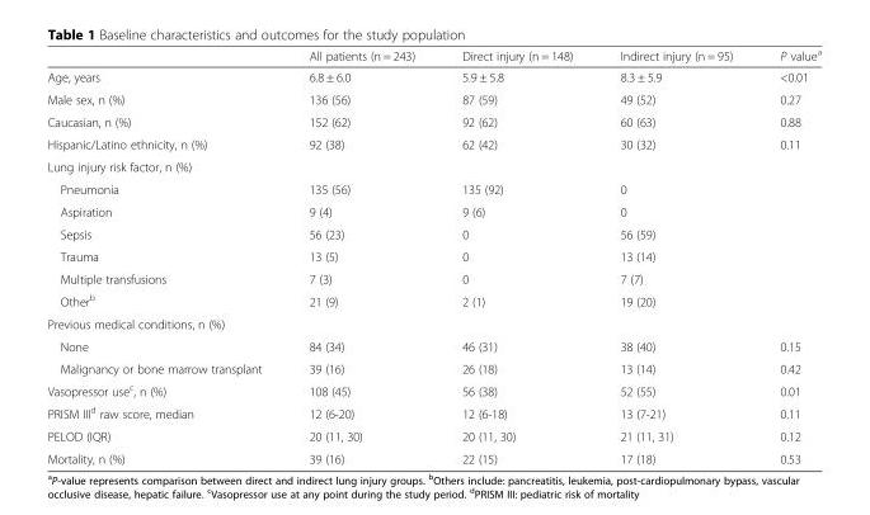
<table><thead><tr><td></td><td>All patients (n = 243)</td><td>Direct injury (n = 148)</td><td>Indirect injury (n = 95)</td><td>P value<sup>a</sup></td></tr></thead><tbody><tr><td>Age, years</td><td>6.8 ± 6.0</td><td>5.9 ± 5.8</td><td>8.3 ± 5.9</td><td>&lt;0.01</td></tr><tr><td>Male sex, n (%)</td><td>136 (56)</td><td>87 (59)</td><td>49 (52)</td><td>0.27</td></tr><tr><td>Caucasian, n (%)</td><td>152 (62)</td><td>92 (62)</td><td>60 (63)</td><td>0.88</td></tr><tr><td>Hispanic/Latino ethnicity, n (%)</td><td>92 (38)</td><td>62 (42)</td><td>30 (32)</td><td>0.11</td></tr><tr><td colspan="5">Lung injury risk factor, n (%)</td></tr><tr><td>Pneumonia</td><td>135 (56)</td><td>135 (92)</td><td>0</td><td></td></tr><tr><td>Aspiration</td><td>9 (4)</td><td>9 (6)</td><td>0</td><td></td></tr><tr><td>Sepsis</td><td>56 (23)</td><td>0</td><td>56 (59)</td><td></td></tr><tr><td>Trauma</td><td>13 (5)</td><td>0</td><td>13 (14)</td><td></td></tr><tr><td>Multiple transfusions</td><td>7 (3)</td><td>0</td><td>7 (7)</td><td></td></tr><tr><td>Other<sup>b</sup></td><td>21 (9)</td><td>2 (1)</td><td>19 (20)</td><td></td></tr><tr><td colspan="5">Previous medical conditions, n (%)</td></tr><tr><td>None</td><td>84 (34)</td><td>46 (31)</td><td>38 (40)</td><td>0.15</td></tr><tr><td>Malignancy or bone marrow transplant</td><td>39 (16)</td><td>26 (18)</td><td>13 (14)</td><td>0.42</td></tr><tr><td>Vasopressor use<sup>c</sup>, n (%)</td><td>108 (45)</td><td>56 (38)</td><td>52 (55)</td><td>0.01</td></tr><tr><td>PRISM III<sup>d</sup> raw score, median</td><td>12 (6-20)</td><td>12 (6-18)</td><td>13 (7-21)</td><td>0.11</td></tr><tr><td>PELOD (IQR)</td><td>20 (11, 30)</td><td>20 (11, 30)</td><td>21 (11, 31)</td><td>0.12</td></tr><tr><td>Mortality, n (%)</td><td>39 (16)</td><td>22 (15)</td><td>17 (18)</td><td>0.53</td></tr></tbody></table>